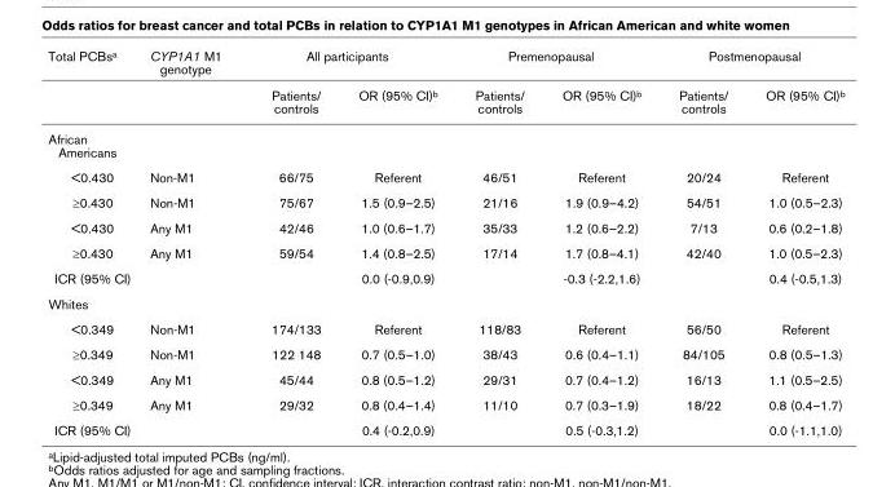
<table><thead><tr><td rowspan="2">Total PCBsa</td><td rowspan="2">CYP1A1 M1 genotype</td><td colspan="2">All participants</td><td colspan="2">Premenopausal</td><td colspan="2">Postmenopausal</td></tr><tr><td>Patients/ controls</td><td>OR (95% CI)b</td><td>Patients/ controls</td><td>OR (95% CI)b</td><td>Patients/ controls</td><td>OR (95% CI)b</td></tr></thead><tbody><tr><td colspan="8">African Americans</td></tr><tr><td>&lt;0.430</td><td>Non-M1</td><td>66/75</td><td>Referent</td><td>46/51</td><td>Referent</td><td>20/24</td><td>Referent</td></tr><tr><td>≥0.430</td><td>Non-M1</td><td>75/67</td><td>1.5 (0.9–2.5)</td><td>21/16</td><td>1.9 (0.9–4.2)</td><td>54/51</td><td>1.0 (0.5–2.3)</td></tr><tr><td>&lt;0.430</td><td>Any M1</td><td>42/46</td><td>1.0 (0.6–1.7)</td><td>35/33</td><td>1.2 (0.6–2.2)</td><td>7/13</td><td>0.6 (0.2–1.8)</td></tr><tr><td>≥0.430</td><td>Any M1</td><td>59/54</td><td>1.4 (0.8–2.5)</td><td>17/14</td><td>1.7 (0.8–4.1)</td><td>42/40</td><td>1.0 (0.5–2.3)</td></tr><tr><td>ICR (95% CI)</td><td></td><td></td><td>0.0 (-0.9,0.9)</td><td></td><td>-0.3 (-2.2,1.6)</td><td></td><td>0.4 (-0.5,1.3)</td></tr><tr><td colspan="8">Whites</td></tr><tr><td>&lt;0.349</td><td>Non-M1</td><td>174/133</td><td>Referent</td><td>118/83</td><td>Referent</td><td>56/50</td><td>Referent</td></tr><tr><td>≥0.349</td><td>Non-M1</td><td>122 148</td><td>0.7 (0.5–1.0)</td><td>38/43</td><td>0.6 (0.4–1.1)</td><td>84/105</td><td>0.8 (0.5–1.3)</td></tr><tr><td>&lt;0.349</td><td>Any M1</td><td>45/44</td><td>0.8 (0.5–1.2)</td><td>29/31</td><td>0.7 (0.4–1.2)</td><td>16/13</td><td>1.1 (0.5–2.5)</td></tr><tr><td>≥0.349</td><td>Any M1</td><td>29/32</td><td>0.8 (0.4–1.4)</td><td>11/10</td><td>0.7 (0.3–1.9)</td><td>18/22</td><td>0.8 (0.4–1.7)</td></tr><tr><td>ICR (95% CI)</td><td></td><td></td><td>0.4 (-0.2,0.9)</td><td></td><td>0.5 (-0.3,1.2)</td><td></td><td>0.0 (-1.1,1.0)</td></tr></tbody></table>